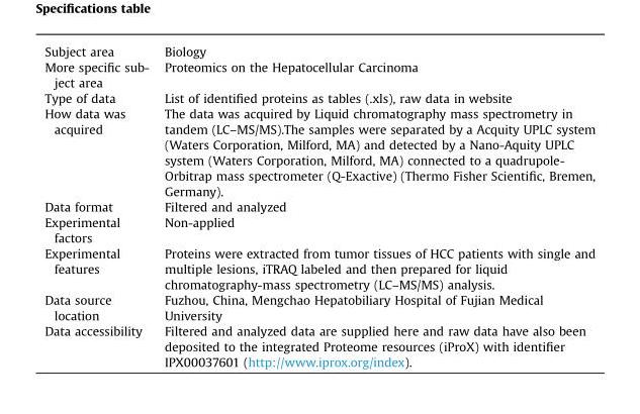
<table><tbody><tr><td>Subject area</td><td>Biology</td></tr><tr><td>More specific sub- ject area</td><td>Proteomics on the Hepatocellular Carcinoma</td></tr><tr><td>Type of data</td><td>List of identified proteins as tables (.xls), raw data in website</td></tr><tr><td>How data was acquired</td><td>The data was acquired by Liquid chromatography mass spectrometry in tandem (LC–MS/MS).The samples were separated by a Acquity UPLC system (Waters Corporation, Milford, MA) and detected by a Nano-Aquity UPLC system (Waters Corporation, Milford, MA) connected to a quadrupole- Orbitrap mass spectrometer (Q-Exactive) (Thermo Fisher Scientific, Bremen, Germany).</td></tr><tr><td>Data format</td><td>Filtered and analyzed</td></tr><tr><td>Experimental factors</td><td>Non-applied</td></tr><tr><td>Experimental features</td><td>Proteins were extracted from tumor tissues of HCC patients with single and multiple lesions, iTRAQ labeled and then prepared for liquid chromatography-mass spectrometry (LC–MS/MS) analysis.</td></tr><tr><td>Data source location</td><td>Fuzhou, China, Mengchao Hepatobiliary Hospital of Fujian Medical University</td></tr><tr><td>Data accessibility</td><td>Filtered and analyzed data are supplied here and raw data have also been deposited to the integrated Proteome resources (iProX) with identifier IPX00037601 (http://www.iprox.org/index).</td></tr></tbody></table>